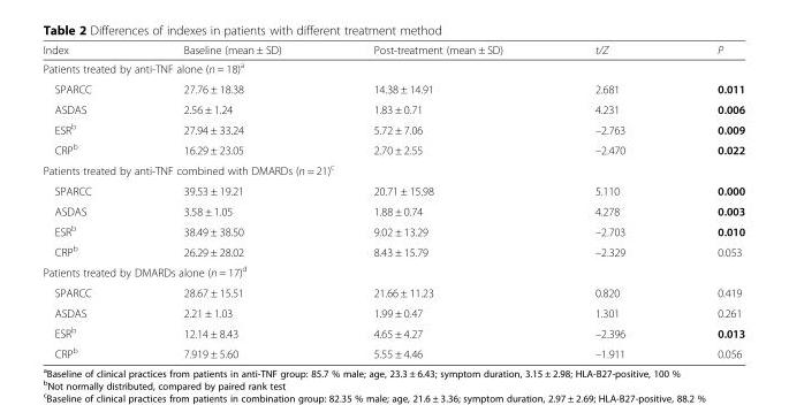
<table><thead><tr><td>Index</td><td>Baseline (mean ± SD)</td><td>Post-treatment (mean ± SD)</td><td>t/Z</td><td>P</td></tr></thead><tbody><tr><td colspan="5">Patients treated by anti-TNF alone (n = 18)<sup>a</sup></td></tr><tr><td>SPARCC</td><td>27.76 ± 18.38</td><td>14.38 ± 14.91</td><td>2.681</td><td>0.011</td></tr><tr><td>ASDAS</td><td>2.56 ± 1.24</td><td>1.83 ± 0.71</td><td>4.231</td><td>0.006</td></tr><tr><td>ESR<sup>b</sup></td><td>27.94 ± 33.24</td><td>5.72 ± 7.06</td><td>–2.763</td><td>0.009</td></tr><tr><td>CRP<sup>b</sup></td><td>16.29 ± 23.05</td><td>2.70 ± 2.55</td><td>–2.470</td><td>0.022</td></tr><tr><td colspan="5">Patients treated by anti-TNF combined with DMARDs (n = 21)<sup>c</sup></td></tr><tr><td>SPARCC</td><td>39.53 ± 19.21</td><td>20.71 ± 15.98</td><td>5.110</td><td>0.000</td></tr><tr><td>ASDAS</td><td>3.58 ± 1.05</td><td>1.88 ± 0.74</td><td>4.278</td><td>0.003</td></tr><tr><td>ESR<sup>b</sup></td><td>38.49 ± 38.50</td><td>9.02 ± 13.29</td><td>–2.703</td><td>0.010</td></tr><tr><td>CRP<sup>b</sup></td><td>26.29 ± 28.02</td><td>8.43 ± 15.79</td><td>–2.329</td><td>0.053</td></tr><tr><td colspan="5">Patients treated by DMARDs alone (n = 17)<sup>d</sup></td></tr><tr><td>SPARCC</td><td>28.67 ± 15.51</td><td>21.66 ± 11.23</td><td>0.820</td><td>0.419</td></tr><tr><td>ASDAS</td><td>2.21 ± 1.03</td><td>1.99 ± 0.47</td><td>1.301</td><td>0.261</td></tr><tr><td>ESR<sup>b</sup></td><td>12.14 ± 8.43</td><td>4.65 ± 4.27</td><td>–2.396</td><td>0.013</td></tr><tr><td>CRP<sup>b</sup></td><td>7.919 ± 5.60</td><td>5.55 ± 4.46</td><td>–1.911</td><td>0.056</td></tr></tbody></table>